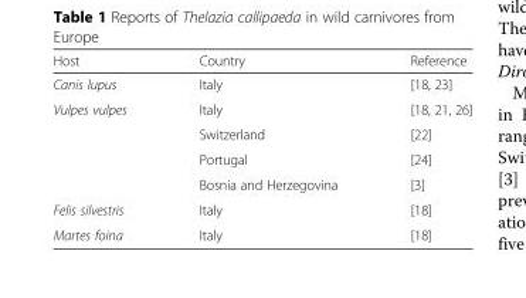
<table><thead><tr><td>Host</td><td>Country</td><td>Reference</td></tr></thead><tbody><tr><td>Canis lupus</td><td>Italy</td><td>[18, 23]</td></tr><tr><td rowspan="4">Vulpes vulpes</td><td>Italy</td><td>[18, 21, 26]</td></tr><tr><td>Switzerland</td><td>[22]</td></tr><tr><td>Portugal</td><td>[24]</td></tr><tr><td>Bosnia and Herzegovina</td><td>[3]</td></tr><tr><td>Felis silvestris</td><td>Italy</td><td>[18]</td></tr><tr><td>Martes foina</td><td>Italy</td><td>[18]</td></tr></tbody></table>